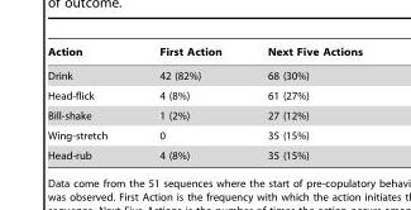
<table><thead><tr><td>Action</td><td>First Action</td><td>Next Five Actions</td></tr></thead><tbody><tr><td>Drink</td><td>42 (82%)</td><td>68 (30%)</td></tr><tr><td>Head-flick</td><td>4 (8%)</td><td>61 (27%)</td></tr><tr><td>Bill-shake</td><td>1 (2%)</td><td>27 (12%)</td></tr><tr><td>Wing-stretch</td><td>0</td><td>35 (15%)</td></tr><tr><td>Head-rub</td><td>4 (8%)</td><td>35 (15%)</td></tr></tbody></table>